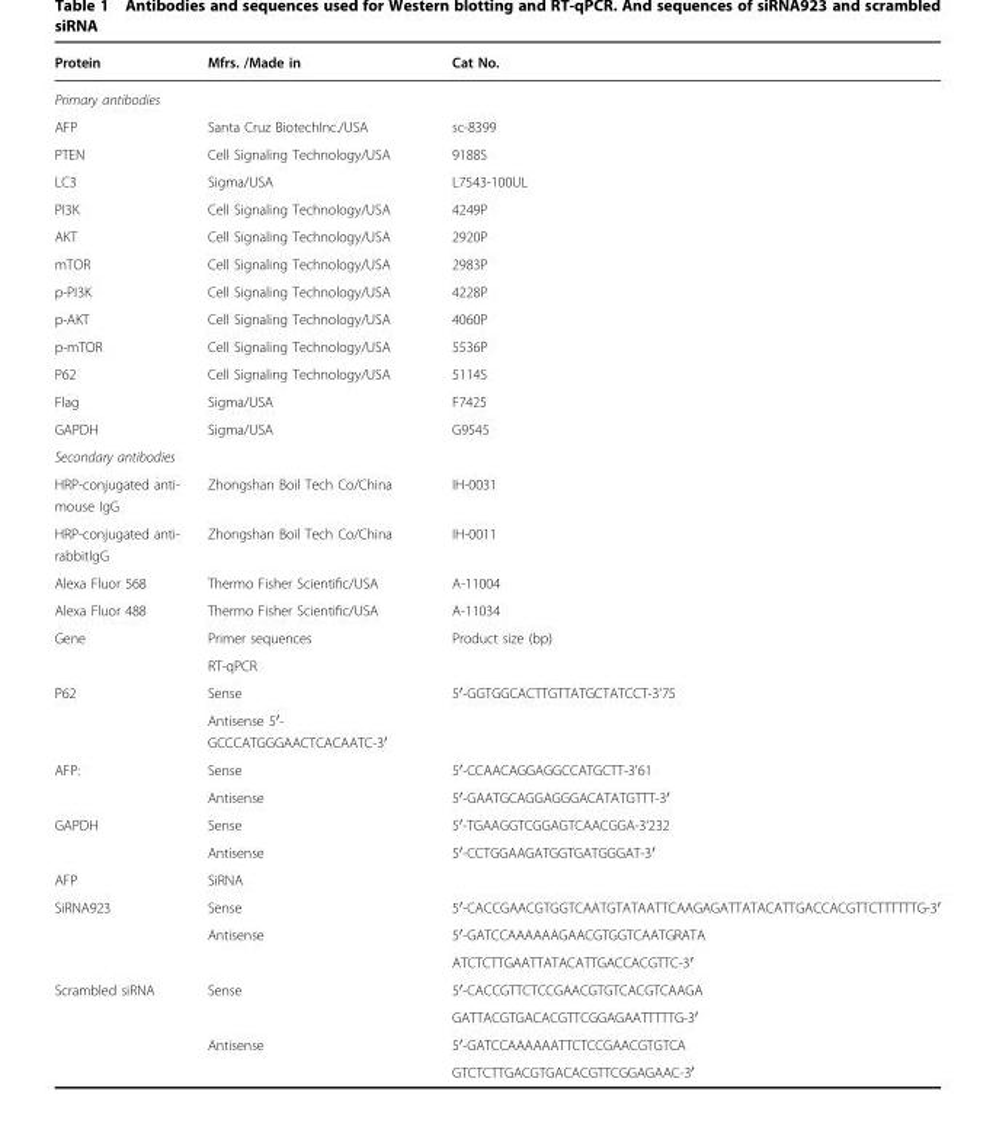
<table><thead><tr><td>Protein</td><td>Mfrs. /Made in</td><td>Cat No.</td></tr></thead><tbody><tr><td colspan="3">Primary antibodies</td></tr><tr><td>AFP</td><td>Santa Cruz BiotechInc./USA</td><td>sc-8399</td></tr><tr><td>PTEN</td><td>Cell Signaling Technology/USA</td><td>9188S</td></tr><tr><td>LC3</td><td>Sigma/USA</td><td>L7543-100UL</td></tr><tr><td>PI3K</td><td>Cell Signaling Technology/USA</td><td>4249P</td></tr><tr><td>AKT</td><td>Cell Signaling Technology/USA</td><td>2920P</td></tr><tr><td>mTOR</td><td>Cell Signaling Technology/USA</td><td>2983P</td></tr><tr><td>p-PI3K</td><td>Cell Signaling Technology/USA</td><td>4228P</td></tr><tr><td>p-AKT</td><td>Cell Signaling Technology/USA</td><td>4060P</td></tr><tr><td>p-mTOR</td><td>Cell Signaling Technology/USA</td><td>5536P</td></tr><tr><td>P62</td><td>Cell Signaling Technology/USA</td><td>5114S</td></tr><tr><td>Flag</td><td>Sigma/USA</td><td>F7425</td></tr><tr><td>GAPDH</td><td>Sigma/USA</td><td>G9545</td></tr><tr><td colspan="3">Secondary antibodies</td></tr><tr><td>HRP-conjugated anti- mouse IgG</td><td>Zhongshan Boil Tech Co/China</td><td>IH-0031</td></tr><tr><td>HRP-conjugated anti- rabbitIgG</td><td>Zhongshan Boil Tech Co/China</td><td>IH-0011</td></tr><tr><td>Alexa Fluor 568</td><td>Thermo Fisher Scientific/USA</td><td>A-11004</td></tr><tr><td>Alexa Fluor 488</td><td>Thermo Fisher Scientific/USA</td><td>A-11034</td></tr><tr><td rowspan="2">Gene</td><td>Primer sequences</td><td>Product size (bp)</td></tr><tr><td>RT-qPCR</td><td></td></tr><tr><td rowspan="2">P62</td><td>Sense</td><td>5′-GGTGGCACTTGTTATGCTATCCT-3&#x27;75</td></tr><tr><td>Antisense 5′- GCCCATGGGAACTCACAATC-3′</td><td></td></tr><tr><td rowspan="2">AFP:</td><td>Sense</td><td>5′-CCAACAGGAGGCCATGCTT-3&#x27;61</td></tr><tr><td>Antisense</td><td>5′-GAATGCAGGAGGGACATATGTTT-3′</td></tr><tr><td rowspan="2">GAPDH</td><td>Sense</td><td>5′-TGAAGGTCGGAGTCAACGGA-3&#x27;232</td></tr><tr><td>Antisense</td><td>5′-CCTGGAAGATGGTGATGGGAT-3′</td></tr><tr><td>AFP</td><td>SiRNA</td><td></td></tr><tr><td rowspan="3">SiRNA923</td><td>Sense</td><td>5′-CACCGAACGTGGTCAATGTATAATTCAAGAGATTATACATTGACCACGTTCTTTTTTG-3′</td></tr><tr><td>Antisense</td><td>5′-GATCCAAAAAAGAACGTGGTCAATGRATA</td></tr><tr><td></td><td>ATCTCTTGAATTATACATTGACCACGTTC-3′</td></tr><tr><td rowspan="4">Scrambled siRNA</td><td>Sense</td><td>5′-CACCGTTCTCCGAACGTGTCACGTCAAGA</td></tr><tr><td></td><td>GATTACGTGACACGTTCGGAGAATTTTTG-3′</td></tr><tr><td>Antisense</td><td>5′-GATCCAAAAAATTCTCCGAACGTGTCA</td></tr><tr><td></td><td>GTCTCTTGACGTGACACGTTCGGAGAAC-3′</td></tr></tbody></table>